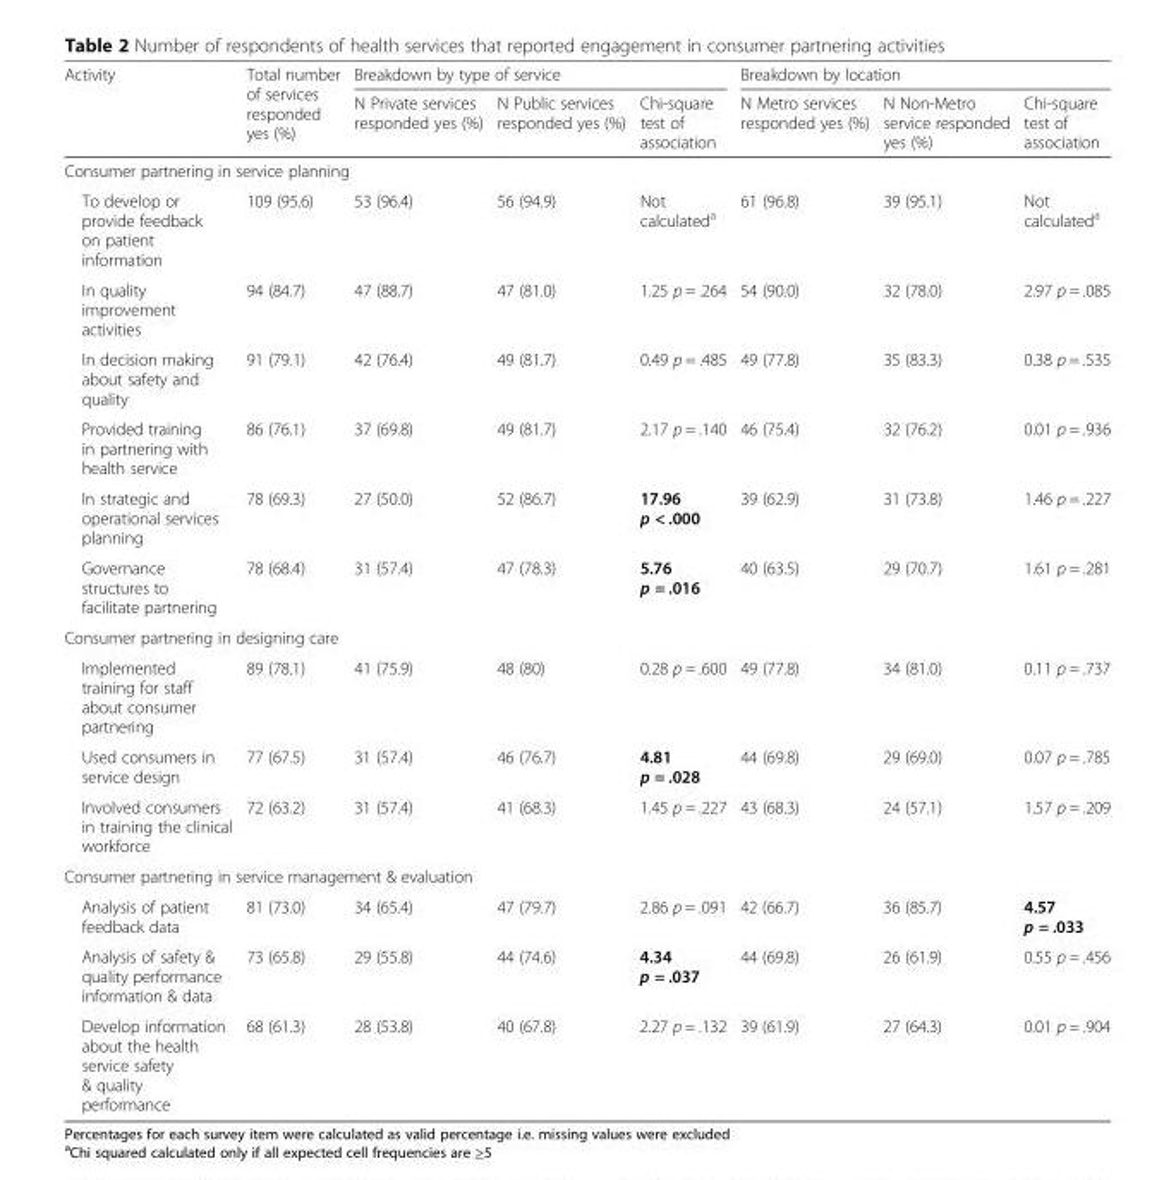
<table><thead><tr><td rowspan="2">Activity</td><td rowspan="2">Total number of services responded yes (%)</td><td colspan="3">Breakdown by type of service</td><td colspan="3">Breakdown by location</td></tr><tr><td>N Private services responded yes (%)</td><td>N Public services responded yes (%)</td><td>Chi-square test of association</td><td>N Metro services responded yes (%)</td><td>N Non-Metro service responded yes (%)</td><td>Chi-square test of association</td></tr></thead><tbody><tr><td colspan="8">Consumer partnering in service planning</td></tr><tr><td>To develop or provide feedback on patient information</td><td>109 (95.6)</td><td>53 (96.4)</td><td>56 (94.9)</td><td>Not calculated<sup>a</sup></td><td>61 (96.8)</td><td>39 (95.1)</td><td>Not calculated<sup>a</sup></td></tr><tr><td>In quality improvement activities</td><td>94 (84.7)</td><td>47 (88.7)</td><td>47 (81.0)</td><td>1.25 p = .264</td><td>54 (90.0)</td><td>32 (78.0)</td><td>2.97 p = .085</td></tr><tr><td>In decision making about safety and quality</td><td>91 (79.1)</td><td>42 (76.4)</td><td>49 (81.7)</td><td>0.49 p = .485</td><td>49 (77.8)</td><td>35 (83.3)</td><td>0.38 p = .535</td></tr><tr><td>Provided training in partnering with health service</td><td>86 (76.1)</td><td>37 (69.8)</td><td>49 (81.7)</td><td>2.17 p = .140</td><td>46 (75.4)</td><td>32 (76.2)</td><td>0.01 p = .936</td></tr><tr><td>In strategic and operational services planning</td><td>78 (69.3)</td><td>27 (50.0)</td><td>52 (86.7)</td><td>17.96 p &lt; .000</td><td>39 (62.9)</td><td>31 (73.8)</td><td>1.46 p = .227</td></tr><tr><td>Governance structures to facilitate partnering</td><td>78 (68.4)</td><td>31 (57.4)</td><td>47 (78.3)</td><td>5.76 p = .016</td><td>40 (63.5)</td><td>29 (70.7)</td><td>1.61 p = .281</td></tr><tr><td colspan="8">Consumer partnering in designing care</td></tr><tr><td>Implemented training for staff about consumer partnering</td><td>89 (78.1)</td><td>41 (75.9)</td><td>48 (80)</td><td>0.28 p = .600</td><td>49 (77.8)</td><td>34 (81.0)</td><td>0.11 p = .737</td></tr><tr><td>Used consumers in service design</td><td>77 (67.5)</td><td>31 (57.4)</td><td>46 (76.7)</td><td>4.81 p = .028</td><td>44 (69.8)</td><td>29 (69.0)</td><td>0.07 p = .785</td></tr><tr><td>Involved consumers in training the clinical workforce</td><td>72 (63.2)</td><td>31 (57.4)</td><td>41 (68.3)</td><td>1.45 p = .227</td><td>43 (68.3)</td><td>24 (57.1)</td><td>1.57 p = .209</td></tr><tr><td colspan="8">Consumer partnering in service management &amp; evaluation</td></tr><tr><td>Analysis of patient feedback data</td><td>81 (73.0)</td><td>34 (65.4)</td><td>47 (79.7)</td><td>2.86 p = .091</td><td>42 (66.7)</td><td>36 (85.7)</td><td>4.57 p = .033</td></tr><tr><td>Analysis of safety &amp; quality performance information &amp; data</td><td>73 (65.8)</td><td>29 (55.8)</td><td>44 (74.6)</td><td>4.34 p = .037</td><td>44 (69.8)</td><td>26 (61.9)</td><td>0.55 p = .456</td></tr><tr><td>Develop information about the health service safety &amp; quality performance</td><td>68 (61.3)</td><td>28 (53.8)</td><td>40 (67.8)</td><td>2.27 p = .132</td><td>39 (61.9)</td><td>27 (64.3)</td><td>0.01 p = .904</td></tr></tbody></table>